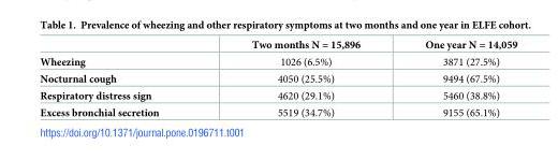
<table><thead><tr><td></td><td>Two months N = 15,896</td><td>One year N = 14,059</td></tr></thead><tbody><tr><td>Wheezing</td><td>1026 (6.5%)</td><td>3871 (27.5%)</td></tr><tr><td>Nocturnal cough</td><td>4050 (25.5%)</td><td>9494 (67.5%)</td></tr><tr><td>Respiratory distress sign</td><td>4620 (29.1%)</td><td>5460 (38.8%)</td></tr><tr><td>Excess bronchial secretion</td><td>5519 (34.7%)</td><td>9155 (65.1%)</td></tr></tbody></table>